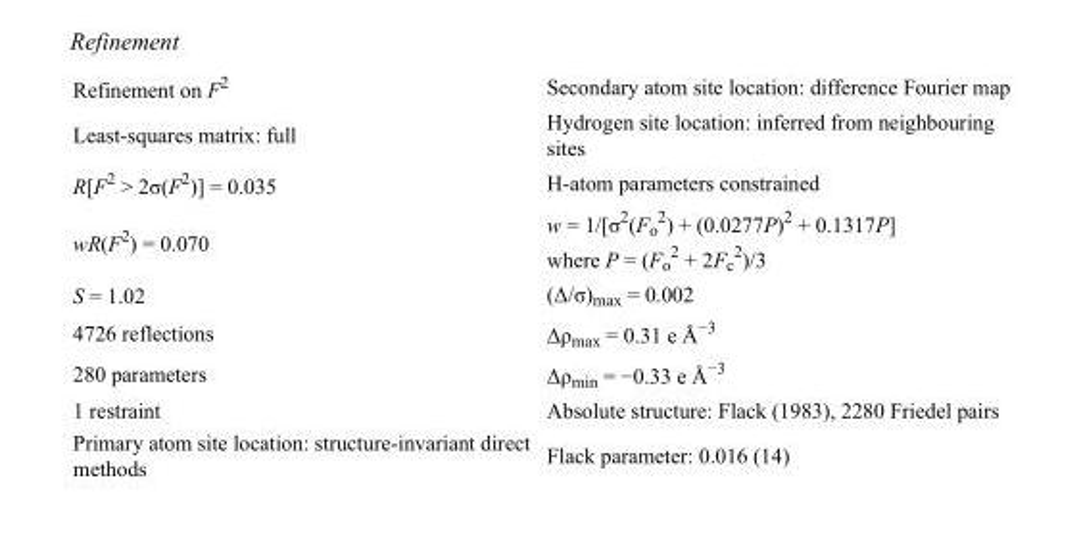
<table><tbody><tr><td>Refinement on F<sup>2</sup></td><td>Secondary atom site location: difference Fourier map</td></tr><tr><td>Least-squares matrix: full</td><td>Hydrogen site location: inferred from neighbouring sites</td></tr><tr><td>R[F<sup>2</sup> &gt; 2σ(F<sup>2</sup>)] = 0.035</td><td>H-atom parameters constrained</td></tr><tr><td>wR(F<sup>2</sup>) = 0.070</td><td>w = 1/[σ<sup>2</sup>(F<sub>o</sub> <sup>2</sup>) + (0.0277P)<sup>2</sup> + 0.1317P] where P = (F<sub>o</sub> <sup>2</sup> + 2F<sub>c</sub> <sup>2</sup>)/3</td></tr><tr><td>S = 1.02</td><td>(Δ/σ)<sub>max</sub> = 0.002</td></tr><tr><td>4726 reflections</td><td>Δρ<sub>max</sub> = 0.31 e Å<sup>−3</sup></td></tr><tr><td>280 parameters</td><td>Δρ<sub>min</sub> = −0.33 e Å<sup>−3</sup></td></tr><tr><td>1 restraint</td><td>Absolute structure: Flack (1983), 2280 Friedel pairs</td></tr><tr><td>Primary atom site location: structure-invariant direct methods</td><td>Flack parameter: 0.016 (14)</td></tr></tbody></table>